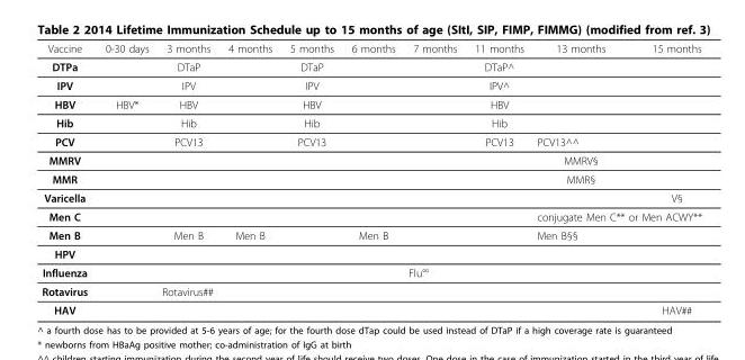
<table><thead><tr><td>Vaccine</td><td>0-30 days</td><td>3 months</td><td>4 months</td><td>5 months</td><td>6 months</td><td>7 months</td><td>11 months</td><td>13 months</td><td>15 months</td></tr></thead><tbody><tr><td>DTPa</td><td></td><td>DTaP</td><td></td><td>DTaP</td><td></td><td></td><td>DTaP^</td><td></td><td></td></tr><tr><td>IPV</td><td></td><td>IPV</td><td></td><td>IPV</td><td></td><td></td><td>IPV^</td><td></td><td></td></tr><tr><td>HBV</td><td>HBV*</td><td>HBV</td><td></td><td>HBV</td><td></td><td></td><td>HBV</td><td></td><td></td></tr><tr><td>Hib</td><td></td><td>Hib</td><td></td><td>Hib</td><td></td><td></td><td>Hib</td><td></td><td></td></tr><tr><td>PCV</td><td></td><td>PCV13</td><td></td><td>PCV13</td><td></td><td></td><td>PCV13</td><td colspan="2">PCV13^^</td></tr><tr><td>MMRV</td><td></td><td></td><td></td><td></td><td></td><td></td><td></td><td>MMRV§</td><td></td></tr><tr><td>MMR</td><td></td><td></td><td></td><td></td><td></td><td></td><td></td><td>MMR§</td><td></td></tr><tr><td>Varicella</td><td></td><td></td><td></td><td></td><td></td><td></td><td></td><td></td><td>V§</td></tr><tr><td>Men C</td><td></td><td></td><td></td><td></td><td></td><td></td><td></td><td colspan="2">conjugate Men C** or Men ACWY**</td></tr><tr><td>Men B</td><td></td><td>Men B</td><td>Men B</td><td></td><td>Men B</td><td></td><td></td><td colspan="2">Men B§§</td></tr><tr><td colspan="10">HPV</td></tr><tr><td>Influenza</td><td></td><td></td><td></td><td></td><td></td><td colspan="4">Flu°°</td></tr><tr><td>Rotavirus</td><td></td><td colspan="5">Rotavirus##</td><td></td><td></td><td></td></tr><tr><td>HAV</td><td></td><td></td><td></td><td></td><td></td><td></td><td></td><td></td><td>HAV##</td></tr></tbody></table>